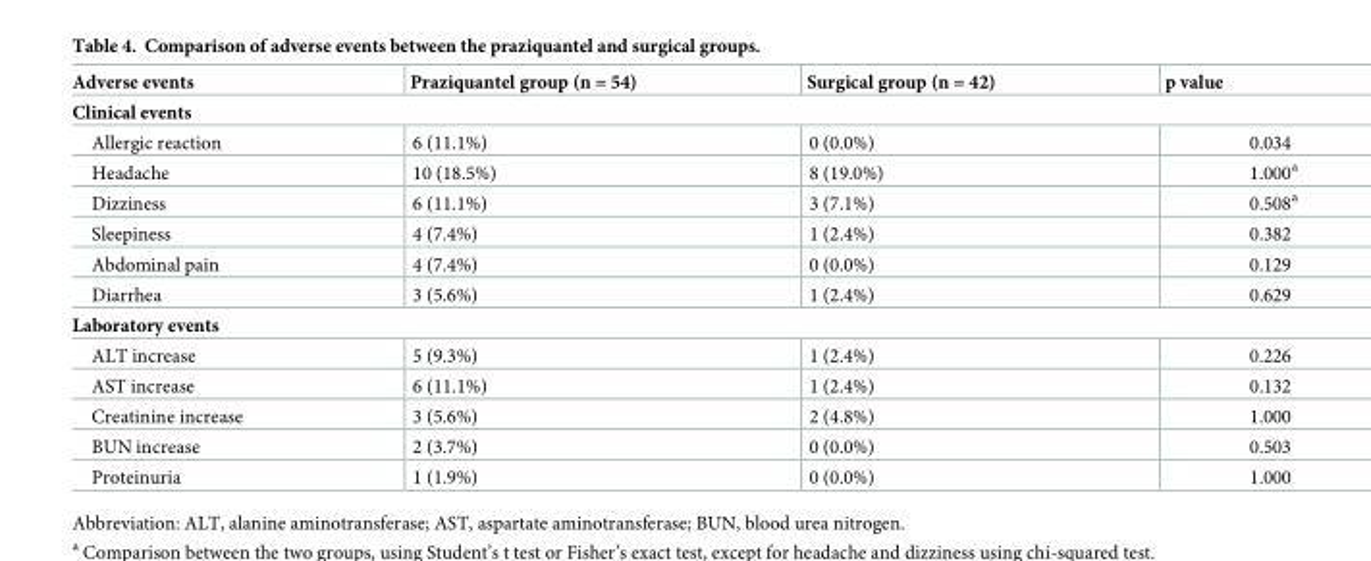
<table><thead><tr><td>Adverse events</td><td>Praziquantel group (n = 54)</td><td>Surgical group (n = 42)</td><td>p value</td></tr></thead><tbody><tr><td colspan="4">Clinical events</td></tr><tr><td>Allergic reaction</td><td>6 (11.1%)</td><td>0 (0.0%)</td><td>0.034</td></tr><tr><td>Headache</td><td>10 (18.5%)</td><td>8 (19.0%)</td><td>1.000<sup>a</sup></td></tr><tr><td>Dizziness</td><td>6 (11.1%)</td><td>3 (7.1%)</td><td>0.508<sup>a</sup></td></tr><tr><td>Sleepiness</td><td>4 (7.4%)</td><td>1 (2.4%)</td><td>0.382</td></tr><tr><td>Abdominal pain</td><td>4 (7.4%)</td><td>0 (0.0%)</td><td>0.129</td></tr><tr><td>Diarrhea</td><td>3 (5.6%)</td><td>1 (2.4%)</td><td>0.629</td></tr><tr><td colspan="4">Laboratory events</td></tr><tr><td>ALT increase</td><td>5 (9.3%)</td><td>1 (2.4%)</td><td>0.226</td></tr><tr><td>AST increase</td><td>6 (11.1%)</td><td>1 (2.4%)</td><td>0.132</td></tr><tr><td>Creatinine increase</td><td>3 (5.6%)</td><td>2 (4.8%)</td><td>1.000</td></tr><tr><td>BUN increase</td><td>2 (3.7%)</td><td>0 (0.0%)</td><td>0.503</td></tr><tr><td>Proteinuria</td><td>1 (1.9%)</td><td>0 (0.0%)</td><td>1.000</td></tr></tbody></table>